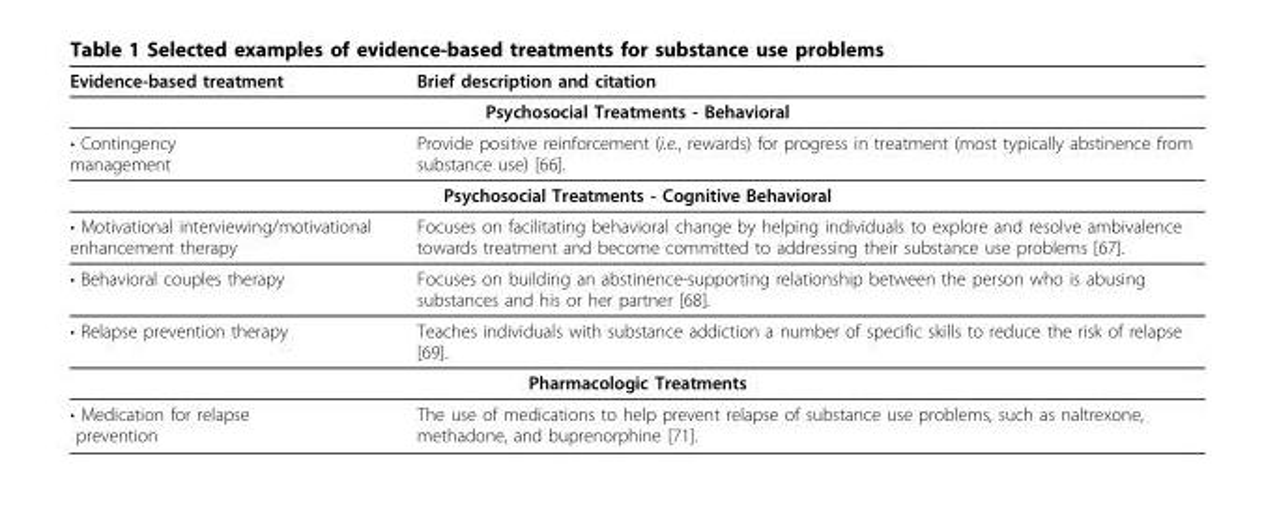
<table><thead><tr><td>Evidence-based treatment</td><td>Brief description and citation</td></tr></thead><tbody><tr><td colspan="2">Psychosocial Treatments - Behavioral</td></tr><tr><td>• Contingency management</td><td>Provide positive reinforcement (i.e., rewards) for progress in treatment (most typically abstinence from substance use) [66].</td></tr><tr><td colspan="2">Psychosocial Treatments - Cognitive Behavioral</td></tr><tr><td>• Motivational interviewing/motivational enhancement therapy</td><td>Focuses on facilitating behavioral change by helping individuals to explore and resolve ambivalence towards treatment and become committed to addressing their substance use problems [67].</td></tr><tr><td>• Behavioral couples therapy</td><td>Focuses on building an abstinence-supporting relationship between the person who is abusing substances and his or her partner [68].</td></tr><tr><td>• Relapse prevention therapy</td><td>Teaches individuals with substance addiction a number of specific skills to reduce the risk of relapse [69].</td></tr><tr><td colspan="2">Pharmacologic Treatments</td></tr><tr><td>• Medication for relapse prevention</td><td>The use of medications to help prevent relapse of substance use problems, such as naltrexone, methadone, and buprenorphine [71].</td></tr></tbody></table>